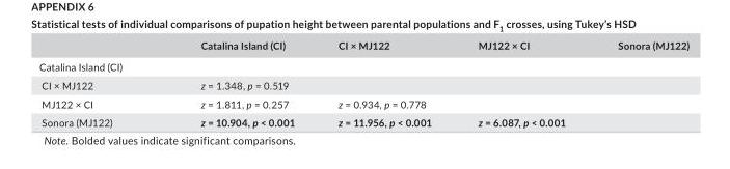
<table><thead><tr><td></td><td>Catalina Island (CI)</td><td>CI × MJ122</td><td>MJ122 × CI</td><td>Sonora (MJ122)</td></tr></thead><tbody><tr><td colspan="5">Catalina Island (CI)</td></tr><tr><td>CI × MJ122</td><td>z = 1.348, p = 0.519</td><td></td><td></td><td></td></tr><tr><td>MJ122 × CI</td><td>z = 1.811, p = 0.257</td><td>z = 0.934, p = 0.778</td><td></td><td></td></tr><tr><td>Sonora (MJ122)</td><td>z = 10.904, p &lt; 0.001</td><td>z = 11.956, p &lt; 0.001</td><td>z = 6.087, p &lt; 0.001</td><td></td></tr></tbody></table>